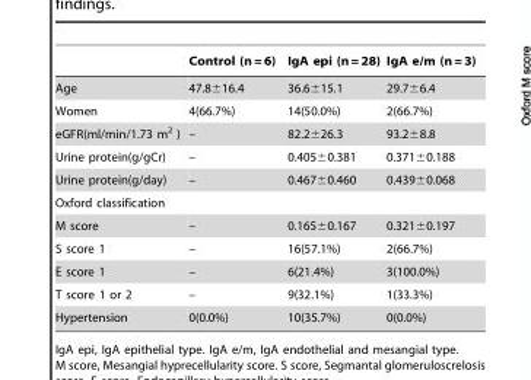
<table><thead><tr><td></td><td>Control (n = 6)</td><td>IgA epi (n = 28)</td><td>IgA e/m (n = 3)</td></tr></thead><tbody><tr><td>Age</td><td>47.8±16.4</td><td>36.6±15.1</td><td>29.7±6.4</td></tr><tr><td>Women</td><td>4(66.7%)</td><td>14(50.0%)</td><td>2(66.7%)</td></tr><tr><td>eGFR(ml/min/1.73 m<sup>2</sup> )</td><td>–</td><td>82.2±26.3</td><td>93.2±8.8</td></tr><tr><td>Urine protein(g/gCr)</td><td>–</td><td>0.405±0.381</td><td>0.371±0.188</td></tr><tr><td>Urine protein(g/day)</td><td>–</td><td>0.467±0.460</td><td>0.439±0.068</td></tr><tr><td colspan="4">Oxford classification</td></tr><tr><td>M score</td><td>–</td><td>0.165±0.167</td><td>0.321±0.197</td></tr><tr><td>S score 1</td><td>–</td><td>16(57.1%)</td><td>2(66.7%)</td></tr><tr><td>E score 1</td><td>–</td><td>6(21.4%)</td><td>3(100.0%)</td></tr><tr><td>T score 1 or 2</td><td>–</td><td>9(32.1%)</td><td>1(33.3%)</td></tr><tr><td>Hypertension</td><td>0(0.0%)</td><td>10(35.7%)</td><td>0(0.0%)</td></tr></tbody></table>